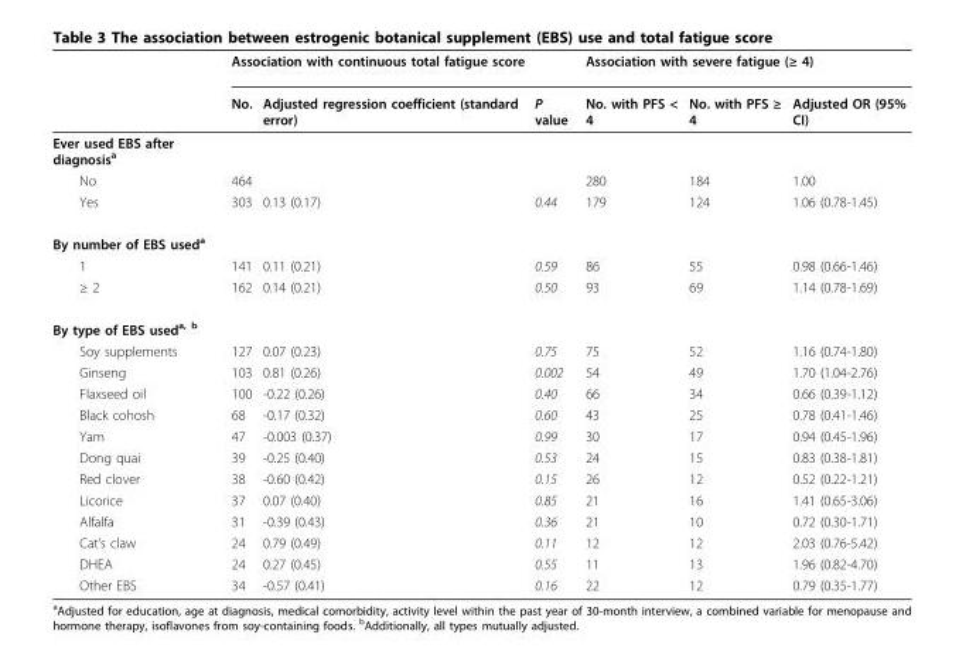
<table><thead><tr><td rowspan="2"></td><td colspan="3">Association with continuous total fatigue score</td><td colspan="3">Association with severe fatigue (≥ 4)</td></tr><tr><td>No.</td><td>Adjusted regression coefficient (standard error)</td><td>P value</td><td>No. with PFS &lt; 4</td><td>No. with PFS ≥ 4</td><td>Adjusted OR (95% CI)</td></tr></thead><tbody><tr><td colspan="7">Ever used EBS after diagnosis<sup>a</sup></td></tr><tr><td>No</td><td>464</td><td></td><td></td><td>280</td><td>184</td><td>1.00</td></tr><tr><td>Yes</td><td>303</td><td>0.13 (0.17)</td><td>0.44</td><td>179</td><td>124</td><td>1.06 (0.78-1.45)</td></tr><tr><td colspan="7">By number of EBS used<sup>a</sup></td></tr><tr><td>1</td><td>141</td><td>0.11 (0.21)</td><td>0.59</td><td>86</td><td>55</td><td>0.98 (0.66-1.46)</td></tr><tr><td>≥ 2</td><td>162</td><td>0.14 (0.21)</td><td>0.50</td><td>93</td><td>69</td><td>1.14 (0.78-1.69)</td></tr><tr><td colspan="7">By type of EBS used<sup>a, b</sup></td></tr><tr><td>Soy supplements</td><td>127</td><td>0.07 (0.23)</td><td>0.75</td><td>75</td><td>52</td><td>1.16 (0.74-1.80)</td></tr><tr><td>Ginseng</td><td>103</td><td>0.81 (0.26)</td><td>0.002</td><td>54</td><td>49</td><td>1.70 (1.04-2.76)</td></tr><tr><td>Flaxseed oil</td><td>100</td><td>-0.22 (0.26)</td><td>0.40</td><td>66</td><td>34</td><td>0.66 (0.39-1.12)</td></tr><tr><td>Black cohosh</td><td>68</td><td>-0.17 (0.32)</td><td>0.60</td><td>43</td><td>25</td><td>0.78 (0.41-1.46)</td></tr><tr><td>Yam</td><td>47</td><td>-0.003 (0.37)</td><td>0.99</td><td>30</td><td>17</td><td>0.94 (0.45-1.96)</td></tr><tr><td>Dong quai</td><td>39</td><td>-0.25 (0.40)</td><td>0.53</td><td>24</td><td>15</td><td>0.83 (0.38-1.81)</td></tr><tr><td>Red clover</td><td>38</td><td>-0.60 (0.42)</td><td>0.15</td><td>26</td><td>12</td><td>0.52 (0.22-1.21)</td></tr><tr><td>Licorice</td><td>37</td><td>0.07 (0.40)</td><td>0.85</td><td>21</td><td>16</td><td>1.41 (0.65-3.06)</td></tr><tr><td>Alfalfa</td><td>31</td><td>-0.39 (0.43)</td><td>0.36</td><td>21</td><td>10</td><td>0.72 (0.30-1.71)</td></tr><tr><td>Cat’s claw</td><td>24</td><td>0.79 (0.49)</td><td>0.11</td><td>12</td><td>12</td><td>2.03 (0.76-5.42)</td></tr><tr><td>DHEA</td><td>24</td><td>0.27 (0.45)</td><td>0.55</td><td>11</td><td>13</td><td>1.96 (0.82-4.70)</td></tr><tr><td>Other EBS</td><td>34</td><td>-0.57 (0.41)</td><td>0.16</td><td>22</td><td>12</td><td>0.79 (0.35-1.77)</td></tr></tbody></table>